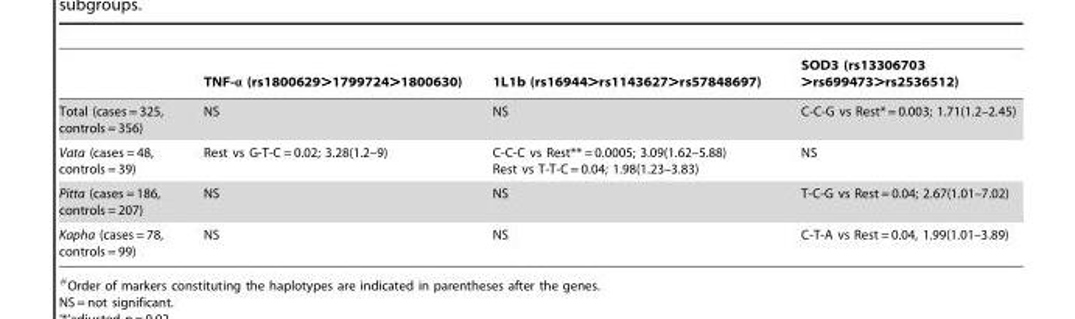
<table><thead><tr><td></td><td>TNF-α (rs1800629&gt;1799724&gt;1800630)</td><td>1L1b (rs16944&gt;rs1143627&gt;rs57848697)</td><td>SOD3 (rs13306703 &gt;rs699473&gt;rs2536512)</td></tr></thead><tbody><tr><td>Total (cases = 325, controls = 356)</td><td>NS</td><td>NS</td><td>C-C-G vs Rest* = 0.003; 1.71(1.2–2.45)</td></tr><tr><td>Vata (cases = 48, controls = 39)</td><td>Rest vs G-T-C = 0.02; 3.28(1.2–9)</td><td>C-C-C vs Rest** = 0.0005; 3.09(1.62–5.88) Rest vs T-T-C = 0.04; 1.98(1.23–3.83)</td><td>NS</td></tr><tr><td>Pitta (cases = 186, controls = 207)</td><td>NS</td><td>NS</td><td>T-C-G vs Rest = 0.04; 2.67(1.01–7.02)</td></tr><tr><td>Kapha (cases = 78, controls = 99)</td><td>NS</td><td>NS</td><td>C-T-A vs Rest = 0.04, 1.99(1.01–3.89)</td></tr></tbody></table>